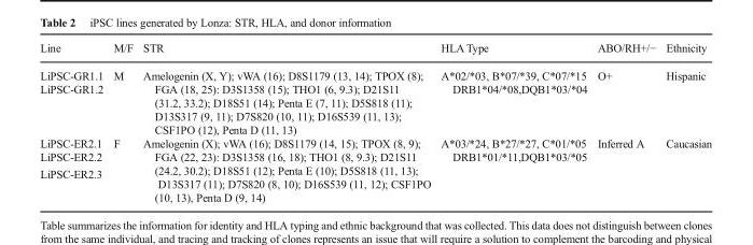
<table><thead><tr><td>Line</td><td>M/F</td><td>STR</td><td>HLA Type</td><td>ABO/RH+/−</td><td>Ethnicity</td></tr></thead><tbody><tr><td>LiPSC-GR1.1</td><td rowspan="2">M</td><td rowspan="2">Amelogenin (X, Y); vWA (16); D8S1179 (13, 14); TPOX (8); FGA (18, 25): D3S1358 (15); THO1 (6, 9.3); D21S11 (31.2, 33.2); D18S51 (14); Penta E (7, 11); D5S818 (11); D13S317 (9, 11); D7S820 (10, 11); D16S539 (11, 13); CSF1PO (12), Penta D (11, 13)</td><td rowspan="2">A*02/*03, B*07/*39, C*07/*15 DRB1*04/*08,DQB1*03/*04</td><td rowspan="2">O+</td><td rowspan="2">Hispanic</td></tr><tr><td>LiPSC-GR1.2</td></tr><tr><td>LiPSC-ER2.1</td><td rowspan="3">F</td><td rowspan="3">Amelogenin (X); vWA (16); D8S1179 (14, 15); TPOX (8, 9); FGA (22, 23): D3S1358 (16, 18); THO1 (8, 9.3); D21S11 (24.2, 30.2); D18S51 (12); Penta E (10); D5S818 (11, 13); D13S317 (11); D7S820 (8, 10); D16S539 (11, 12); CSF1PO (10, 13), Penta D (9, 14)</td><td rowspan="3">A*03/*24, B*27/*27, C*01/*05 DRB1*01/*11,DQB1*03/*05</td><td rowspan="3">Inferred A</td><td rowspan="3">Caucasian</td></tr><tr><td>LiPSC-ER2.2</td></tr><tr><td>LiPSC-ER2.3</td></tr></tbody></table>